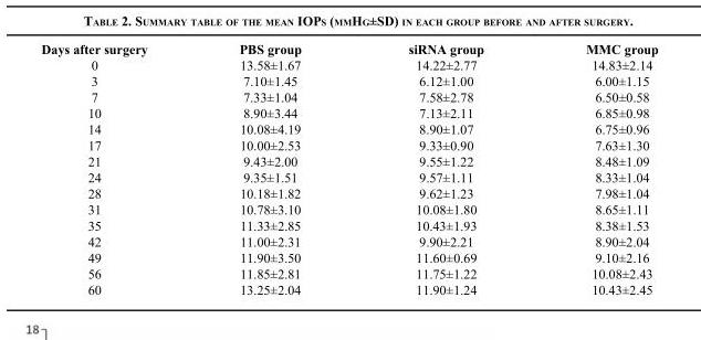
<table><thead><tr><td>Days after surgery</td><td>PBS group</td><td>siRNA group</td><td>MMC group</td></tr></thead><tbody><tr><td>0</td><td>13.58±1.67</td><td>14.22±2.77</td><td>14.83±2.14</td></tr><tr><td>3</td><td>7.10±1.45</td><td>6.12±1.00</td><td>6.00±1.15</td></tr><tr><td>7</td><td>7.33±1.04</td><td>7.58±2.78</td><td>6.50±0.58</td></tr><tr><td>10</td><td>8.90±3.44</td><td>7.13±2.11</td><td>6.85±0.98</td></tr><tr><td>14</td><td>10.08±4.19</td><td>8.90±1.07</td><td>6.75±0.96</td></tr><tr><td>17</td><td>10.00±2.53</td><td>9.33±0.90</td><td>7.63±1.30</td></tr><tr><td>21</td><td>9.43±2.00</td><td>9.55±1.22</td><td>8.48±1.09</td></tr><tr><td>24</td><td>9.35±1.51</td><td>9.57±1.11</td><td>8.33±1.04</td></tr><tr><td>28</td><td>10.18±1.82</td><td>9.62±1.23</td><td>7.98±1.04</td></tr><tr><td>31</td><td>10.78±3.10</td><td>10.08±1.80</td><td>8.65±1.11</td></tr><tr><td>35</td><td>11.33±2.85</td><td>10.43±1.93</td><td>8.38±1.53</td></tr><tr><td>42</td><td>11.00±2.31</td><td>9.90±2.21</td><td>8.90±2.04</td></tr><tr><td>49</td><td>11.90±3.50</td><td>11.60±0.69</td><td>9.10±2.16</td></tr><tr><td>56</td><td>11.85±2.81</td><td>11.75±1.22</td><td>10.08±2.43</td></tr><tr><td>60</td><td>13.25±2.04</td><td>11.90±1.24</td><td>10.43±2.45</td></tr></tbody></table>